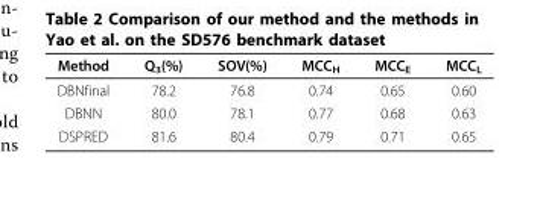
<table><thead><tr><td>Method</td><td>Q<sub>3</sub>(%)</td><td>SOV(%)</td><td>MCC<sub>H</sub></td><td>MCC<sub>E</sub></td><td>MCC<sub>L</sub></td></tr></thead><tbody><tr><td>DBNfinal</td><td>78.2</td><td>76.8</td><td>0.74</td><td>0.65</td><td>0.60</td></tr><tr><td>DBNN</td><td>80.0</td><td>78.1</td><td>0.77</td><td>0.68</td><td>0.63</td></tr><tr><td>DSPRED</td><td>81.6</td><td>80.4</td><td>0.79</td><td>0.71</td><td>0.65</td></tr></tbody></table>